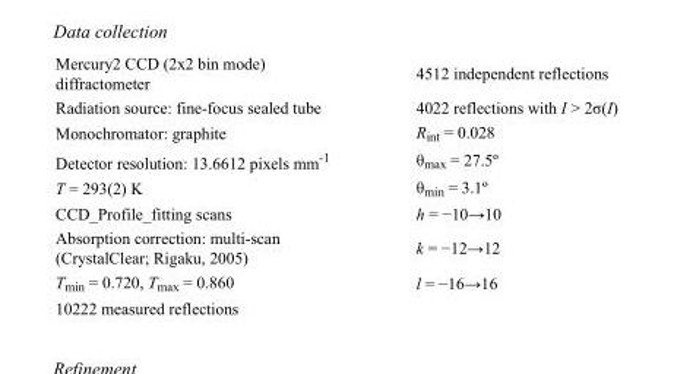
<table><tbody><tr><td>Mercury2 CCD (2x2 bin mode) diffractometer</td><td>4512 independent reflections</td></tr><tr><td>Radiation source: fine-focus sealed tube</td><td>4022 reflections with I &gt; 2σ(I)</td></tr><tr><td>Monochromator: graphite</td><td>R<sub>int</sub> = 0.028</td></tr><tr><td>Detector resolution: 13.6612 pixels mm<sup>-1</sup></td><td>θ<sub>max</sub> = 27.5º</td></tr><tr><td>T = 293(2) K</td><td>θ<sub>min</sub> = 3.1º</td></tr><tr><td>CCD_Profile_fitting scans</td><td>h = −10→10</td></tr><tr><td>Absorption correction: multi-scan (CrystalClear; Rigaku, 2005)</td><td>k = −12→12</td></tr><tr><td>T<sub>min</sub> = 0.720, T<sub>max</sub> = 0.860</td><td>l = −16→16</td></tr><tr><td>10222 measured reflections</td><td></td></tr></tbody></table>